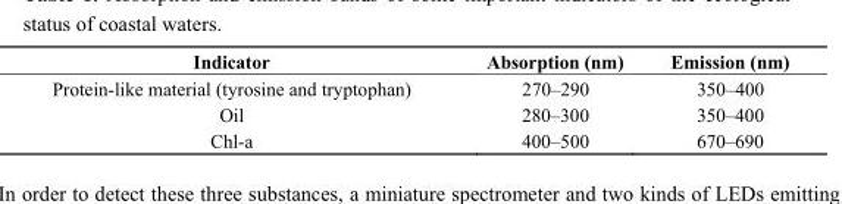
<table><thead><tr><td>Indicator</td><td>Absorption (nm)</td><td>Emission (nm)</td></tr></thead><tbody><tr><td>Protein-like material (tyrosine and tryptophan)</td><td>270–290</td><td>350–400</td></tr><tr><td>Oil</td><td>280–300</td><td>350–400</td></tr><tr><td>Chl-a</td><td>400–500</td><td>670–690</td></tr></tbody></table>